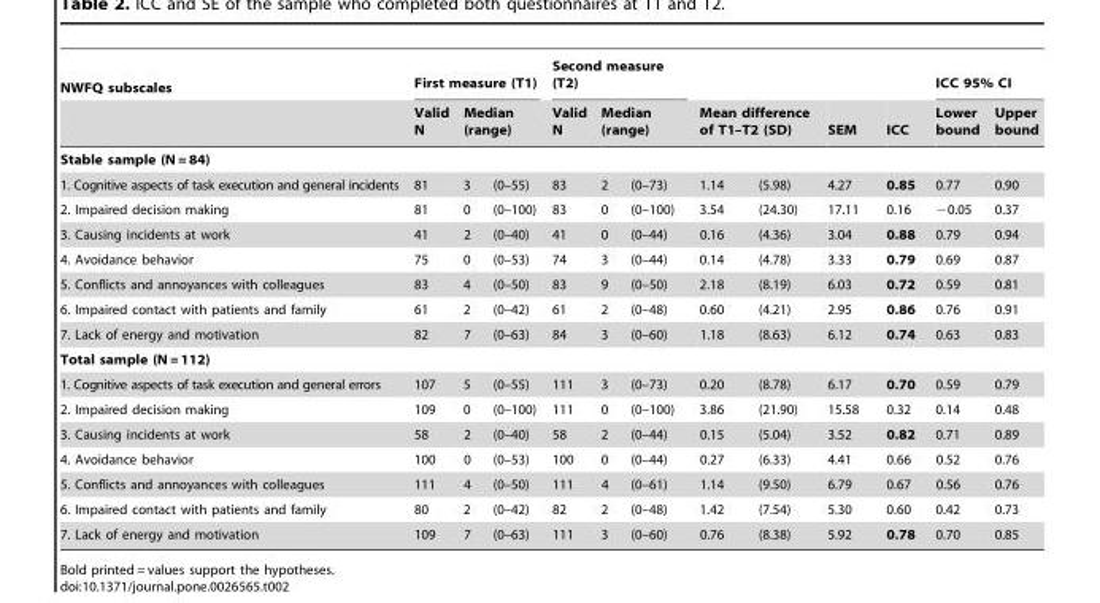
<table><thead><tr><td rowspan="3">NWFQ subscales Stable sample (N = 84)</td><td colspan="3">First measure (T1)</td><td colspan="3">Second measure (T2)</td><td></td><td></td><td rowspan="3">SEM</td><td rowspan="3">ICC</td><td colspan="2">ICC 95% CI</td></tr><tr><td rowspan="2">Valid N</td><td colspan="2">Median (range)</td><td rowspan="2">Valid N</td><td colspan="2">Median (range)</td><td colspan="2">Mean difference of T1–T2 (SD)</td><td rowspan="2">Lower bound</td><td rowspan="2">Upper bound</td></tr><tr><td></td><td></td><td></td><td></td><td></td><td></td></tr></thead><tbody><tr><td>1. Cognitive aspects of task execution and general incidents</td><td>81</td><td>3</td><td>(0–55)</td><td>83</td><td>2</td><td>(0–73)</td><td>1.14</td><td>(5.98)</td><td>4.27</td><td>0.85</td><td>0.77</td><td>0.90</td></tr><tr><td>2. Impaired decision making</td><td>81</td><td>0</td><td>(0–100)</td><td>83</td><td>0</td><td>(0–100)</td><td>3.54</td><td>(24.30)</td><td>17.11</td><td>0.16</td><td>−0.05</td><td>0.37</td></tr><tr><td>3. Causing incidents at work</td><td>41</td><td>2</td><td>(0–40)</td><td>41</td><td>0</td><td>(0–44)</td><td>0.16</td><td>(4.36)</td><td>3.04</td><td>0.88</td><td>0.79</td><td>0.94</td></tr><tr><td>4. Avoidance behavior</td><td>75</td><td>0</td><td>(0–53)</td><td>74</td><td>3</td><td>(0–44)</td><td>0.14</td><td>(4.78)</td><td>3.33</td><td>0.79</td><td>0.69</td><td>0.87</td></tr><tr><td>5. Conflicts and annoyances with colleagues</td><td>83</td><td>4</td><td>(0–50)</td><td>83</td><td>9</td><td>(0–50)</td><td>2.18</td><td>(8.19)</td><td>6.03</td><td>0.72</td><td>0.59</td><td>0.81</td></tr><tr><td>6. Impaired contact with patients and family</td><td>61</td><td>2</td><td>(0–42)</td><td>61</td><td>2</td><td>(0–48)</td><td>0.60</td><td>(4.21)</td><td>2.95</td><td>0.86</td><td>0.76</td><td>0.91</td></tr><tr><td>7. Lack of energy and motivation</td><td>82</td><td>7</td><td>(0–63)</td><td>84</td><td>3</td><td>(0–60)</td><td>1.18</td><td>(8.63)</td><td>6.12</td><td>0.74</td><td>0.63</td><td>0.83</td></tr><tr><td colspan="13">Total sample (N = 112)</td></tr><tr><td>1. Cognitive aspects of task execution and general errors</td><td>107</td><td>5</td><td>(0–55)</td><td>111</td><td>3</td><td>(0–73)</td><td>0.20</td><td>(8.78)</td><td>6.17</td><td>0.70</td><td>0.59</td><td>0.79</td></tr><tr><td>2. Impaired decision making</td><td>109</td><td>0</td><td>(0–100)</td><td>111</td><td>0</td><td>(0–100)</td><td>3.86</td><td>(21.90)</td><td>15.58</td><td>0.32</td><td>0.14</td><td>0.48</td></tr><tr><td>3. Causing incidents at work</td><td>58</td><td>2</td><td>(0–40)</td><td>58</td><td>2</td><td>(0–44)</td><td>0.15</td><td>(5.04)</td><td>3.52</td><td>0.82</td><td>0.71</td><td>0.89</td></tr><tr><td>4. Avoidance behavior</td><td>100</td><td>0</td><td>(0–53)</td><td>100</td><td>0</td><td>(0–44)</td><td>0.27</td><td>(6.33)</td><td>4.41</td><td>0.66</td><td>0.52</td><td>0.76</td></tr><tr><td>5. Conflicts and annoyances with colleagues</td><td>111</td><td>4</td><td>(0–50)</td><td>111</td><td>4</td><td>(0–61)</td><td>1.14</td><td>(9.50)</td><td>6.79</td><td>0.67</td><td>0.56</td><td>0.76</td></tr><tr><td>6. Impaired contact with patients and family</td><td>80</td><td>2</td><td>(0–42)</td><td>82</td><td>2</td><td>(0–48)</td><td>1.42</td><td>(7.54)</td><td>5.30</td><td>0.60</td><td>0.42</td><td>0.73</td></tr><tr><td>7. Lack of energy and motivation</td><td>109</td><td>7</td><td>(0–63)</td><td>111</td><td>3</td><td>(0–60)</td><td>0.76</td><td>(8.38)</td><td>5.92</td><td>0.78</td><td>0.70</td><td>0.85</td></tr></tbody></table>